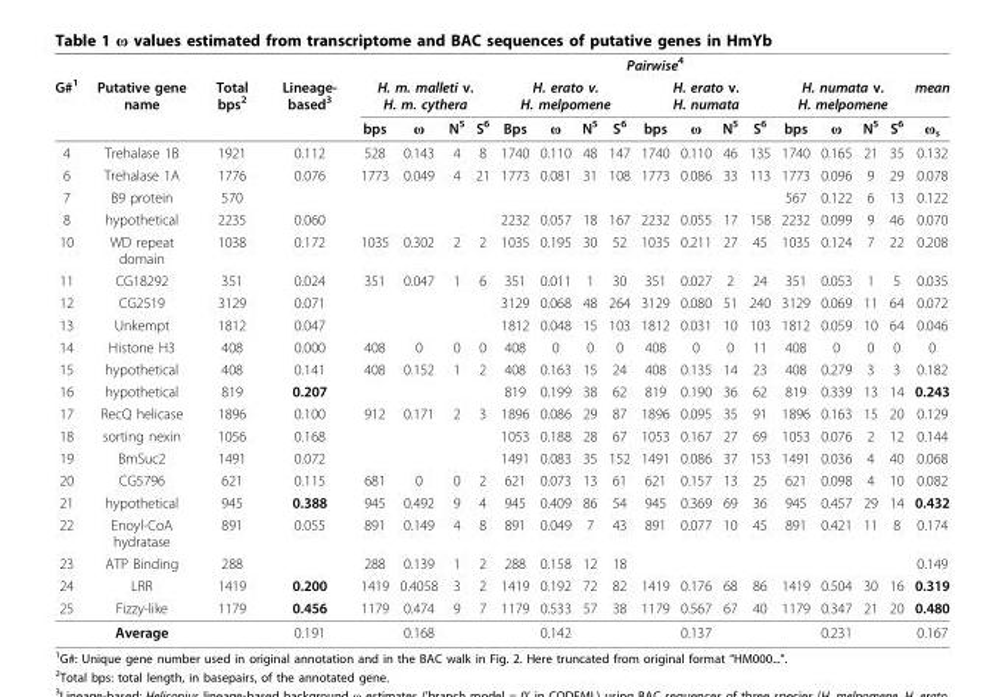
<table><thead><tr><td rowspan="3">G#<sup>1</sup></td><td rowspan="3">Putative gene name</td><td rowspan="3">Total bps<sup>2</sup></td><td rowspan="3">Lineage- based<sup>3</sup></td><td colspan="17">Pairwise<sup>4</sup></td></tr><tr><td colspan="4">H. m. malleti v. H. m. cythera</td><td colspan="4">H. erato v. H. melpomene</td><td colspan="4">H. erato v. H. numata</td><td colspan="4">H. numata v. H. melpomene</td><td rowspan="2">mean ω<sub>s</sub></td></tr><tr><td>bps</td><td>ω</td><td>N<sup>5</sup></td><td>S<sup>6</sup></td><td>Bps</td><td>ω</td><td>N<sup>5</sup></td><td>S<sup>6</sup></td><td>bps</td><td>ω</td><td>N<sup>5</sup></td><td>S<sup>6</sup></td><td>bps</td><td>ω</td><td>N<sup>5</sup></td><td>S<sup>6</sup></td></tr></thead><tbody><tr><td>4</td><td>Trehalase 1B</td><td>1921</td><td>0.112</td><td>528</td><td>0.143</td><td>4</td><td>8</td><td>1740</td><td>0.110</td><td>48</td><td>147</td><td>1740</td><td>0.110</td><td>46</td><td>135</td><td>1740</td><td>0.165</td><td>21</td><td>35</td><td>0.132</td></tr><tr><td>6</td><td>Trehalase 1A</td><td>1776</td><td>0.076</td><td>1773</td><td>0.049</td><td>4</td><td>21</td><td>1773</td><td>0.081</td><td>31</td><td>108</td><td>1773</td><td>0.086</td><td>33</td><td>113</td><td>1773</td><td>0.096</td><td>9</td><td>29</td><td>0.078</td></tr><tr><td>7</td><td>B9 protein</td><td>570</td><td></td><td></td><td></td><td></td><td></td><td></td><td></td><td></td><td></td><td></td><td></td><td></td><td></td><td>567</td><td>0.122</td><td>6</td><td>13</td><td>0.122</td></tr><tr><td>8</td><td>hypothetical</td><td>2235</td><td>0.060</td><td></td><td></td><td></td><td></td><td>2232</td><td>0.057</td><td>18</td><td>167</td><td>2232</td><td>0.055</td><td>17</td><td>158</td><td>2232</td><td>0.099</td><td>9</td><td>46</td><td>0.070</td></tr><tr><td>10</td><td>WD repeat domain</td><td>1038</td><td>0.172</td><td>1035</td><td>0.302</td><td>2</td><td>2</td><td>1035</td><td>0.195</td><td>30</td><td>52</td><td>1035</td><td>0.211</td><td>27</td><td>45</td><td>1035</td><td>0.124</td><td>7</td><td>22</td><td>0.208</td></tr><tr><td>11</td><td>CG18292</td><td>351</td><td>0.024</td><td>351</td><td>0.047</td><td>1</td><td>6</td><td>351</td><td>0.011</td><td>1</td><td>30</td><td>351</td><td>0.027</td><td>2</td><td>24</td><td>351</td><td>0.053</td><td>1</td><td>5</td><td>0.035</td></tr><tr><td>12</td><td>CG2519</td><td>3129</td><td>0.071</td><td></td><td></td><td></td><td></td><td>3129</td><td>0.068</td><td>48</td><td>264</td><td>3129</td><td>0.080</td><td>51</td><td>240</td><td>3129</td><td>0.069</td><td>11</td><td>64</td><td>0.072</td></tr><tr><td>13</td><td>Unkempt</td><td>1812</td><td>0.047</td><td></td><td></td><td></td><td></td><td>1812</td><td>0.048</td><td>15</td><td>103</td><td>1812</td><td>0.031</td><td>10</td><td>103</td><td>1812</td><td>0.059</td><td>10</td><td>64</td><td>0.046</td></tr><tr><td>14</td><td>Histone H3</td><td>408</td><td>0.000</td><td>408</td><td>0</td><td>0</td><td>0</td><td>408</td><td>0</td><td>0</td><td>0</td><td>408</td><td>0</td><td>0</td><td>11</td><td>408</td><td>0</td><td>0</td><td>0</td><td>0</td></tr><tr><td>15</td><td>hypothetical</td><td>408</td><td>0.141</td><td>408</td><td>0.152</td><td>1</td><td>2</td><td>408</td><td>0.163</td><td>15</td><td>24</td><td>408</td><td>0.135</td><td>14</td><td>23</td><td>408</td><td>0.279</td><td>3</td><td>3</td><td>0.182</td></tr><tr><td>16</td><td>hypothetical</td><td>819</td><td>0.207</td><td></td><td></td><td></td><td></td><td>819</td><td>0.199</td><td>38</td><td>62</td><td>819</td><td>0.190</td><td>36</td><td>62</td><td>819</td><td>0.339</td><td>13</td><td>14</td><td>0.243</td></tr><tr><td>17</td><td>RecQ helicase</td><td>1896</td><td>0.100</td><td>912</td><td>0.171</td><td>2</td><td>3</td><td>1896</td><td>0.086</td><td>29</td><td>87</td><td>1896</td><td>0.095</td><td>35</td><td>91</td><td>1896</td><td>0.163</td><td>15</td><td>20</td><td>0.129</td></tr><tr><td>18</td><td>sorting nexin</td><td>1056</td><td>0.168</td><td></td><td></td><td></td><td></td><td>1053</td><td>0.188</td><td>28</td><td>67</td><td>1053</td><td>0.167</td><td>27</td><td>69</td><td>1053</td><td>0.076</td><td>2</td><td>12</td><td>0.144</td></tr><tr><td>19</td><td>BmSuc2</td><td>1491</td><td>0.072</td><td></td><td></td><td></td><td></td><td>1491</td><td>0.083</td><td>35</td><td>152</td><td>1491</td><td>0.086</td><td>37</td><td>153</td><td>1491</td><td>0.036</td><td>4</td><td>40</td><td>0.068</td></tr><tr><td>20</td><td>CG5796</td><td>621</td><td>0.115</td><td>681</td><td>0</td><td>0</td><td>2</td><td>621</td><td>0.073</td><td>13</td><td>61</td><td>621</td><td>0.157</td><td>13</td><td>25</td><td>621</td><td>0.098</td><td>4</td><td>10</td><td>0.082</td></tr><tr><td>21</td><td>hypothetical</td><td>945</td><td>0.388</td><td>945</td><td>0.492</td><td>9</td><td>4</td><td>945</td><td>0.409</td><td>86</td><td>54</td><td>945</td><td>0.369</td><td>69</td><td>36</td><td>945</td><td>0.457</td><td>29</td><td>14</td><td>0.432</td></tr><tr><td>22</td><td>Enoyl-CoA hydratase</td><td>891</td><td>0.055</td><td>891</td><td>0.149</td><td>4</td><td>8</td><td>891</td><td>0.049</td><td>7</td><td>43</td><td>891</td><td>0.077</td><td>10</td><td>45</td><td>891</td><td>0.421</td><td>11</td><td>8</td><td>0.174</td></tr><tr><td>23</td><td>ATP Binding</td><td>288</td><td></td><td>288</td><td>0.139</td><td>1</td><td>2</td><td>288</td><td>0.158</td><td>12</td><td>18</td><td></td><td></td><td></td><td></td><td></td><td></td><td></td><td></td><td>0.149</td></tr><tr><td>24</td><td>LRR</td><td>1419</td><td>0.200</td><td>1419</td><td>0.4058</td><td>3</td><td>2</td><td>1419</td><td>0.192</td><td>72</td><td>82</td><td>1419</td><td>0.176</td><td>68</td><td>86</td><td>1419</td><td>0.504</td><td>30</td><td>16</td><td>0.319</td></tr><tr><td rowspan="2">25</td><td>Fizzy-like</td><td>1179</td><td>0.456</td><td>1179</td><td>0.474</td><td>9</td><td>7</td><td>1179</td><td>0.533</td><td>57</td><td>38</td><td>1179</td><td>0.567</td><td>67</td><td>40</td><td>1179</td><td>0.347</td><td>21</td><td>20</td><td>0.480</td></tr><tr><td>Average</td><td></td><td>0.191</td><td></td><td>0.168</td><td></td><td></td><td></td><td>0.142</td><td></td><td></td><td></td><td>0.137</td><td></td><td></td><td></td><td>0.231</td><td></td><td></td><td>0.167</td></tr></tbody></table>